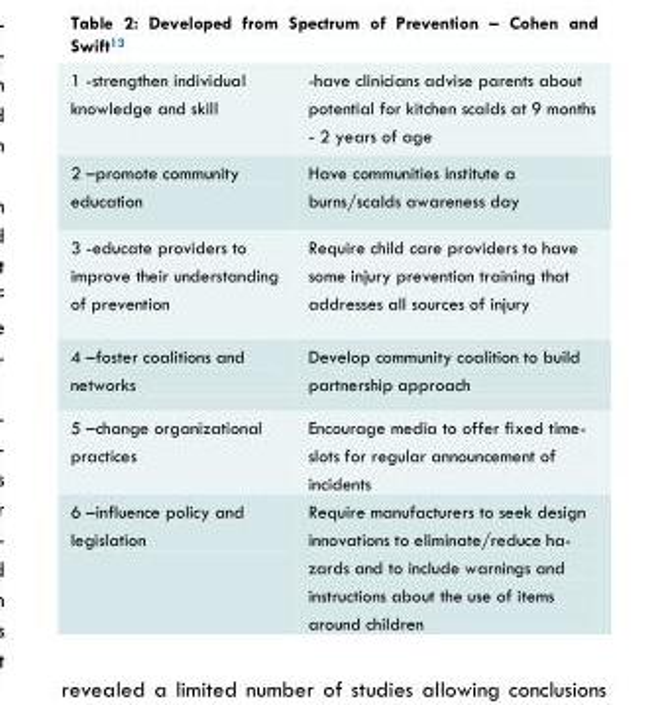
<table><tbody><tr><td>1 -strengthen individual knowledge and skill</td><td>-have clinicians advise parents about potential for kitchen scalds at 9 months - 2 years of age</td></tr><tr><td>2 –promote community education</td><td>Have communities institute a burns/scalds awareness day</td></tr><tr><td>3 -educate providers to improve their understanding of prevention</td><td>Require child care providers to have some injury prevention training that addresses all sources of injury</td></tr><tr><td>4 –foster coalitions and networks</td><td>Develop community coalition to build partnership approach</td></tr><tr><td>5 –change organizational practices</td><td>Encourage media to offer fixed time- slots for regular announcement of incidents</td></tr><tr><td>6 –influence policy and legislation</td><td>Require manufacturers to seek design innovations to eliminate/reduce ha- zards and to include warnings and instructions about the use of items around children</td></tr></tbody></table>